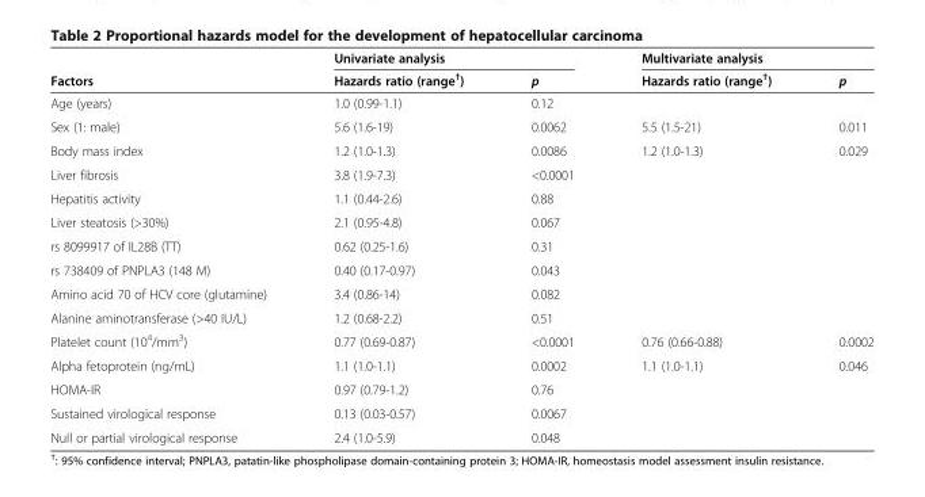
<table><thead><tr><td rowspan="2">Factors</td><td colspan="2">Univariate analysis</td><td colspan="2">Multivariate analysis</td></tr><tr><td>Hazards ratio (range<sup>†</sup>)</td><td>p</td><td>Hazards ratio (range<sup>†</sup>)</td><td>p</td></tr></thead><tbody><tr><td>Age (years)</td><td>1.0 (0.99-1.1)</td><td>0.12</td><td></td><td></td></tr><tr><td>Sex (1: male)</td><td>5.6 (1.6-19)</td><td>0.0062</td><td>5.5 (1.5-21)</td><td>0.011</td></tr><tr><td>Body mass index</td><td>1.2 (1.0-1.3)</td><td>0.0086</td><td>1.2 (1.0-1.3)</td><td>0.029</td></tr><tr><td>Liver fibrosis</td><td>3.8 (1.9-7.3)</td><td>&lt;0.0001</td><td></td><td></td></tr><tr><td>Hepatitis activity</td><td>1.1 (0.44-2.6)</td><td>0.88</td><td></td><td></td></tr><tr><td>Liver steatosis (&gt;30%)</td><td>2.1 (0.95-4.8)</td><td>0.067</td><td></td><td></td></tr><tr><td>rs 8099917 of IL28B (TT)</td><td>0.62 (0.25-1.6)</td><td>0.31</td><td></td><td></td></tr><tr><td>rs 738409 of PNPLA3 (148 M)</td><td>0.40 (0.17-0.97)</td><td>0.043</td><td></td><td></td></tr><tr><td>Amino acid 70 of HCV core (glutamine)</td><td>3.4 (0.86-14)</td><td>0.082</td><td></td><td></td></tr><tr><td>Alanine aminotransferase (&gt;40 IU/L)</td><td>1.2 (0.68-2.2)</td><td>0.51</td><td></td><td></td></tr><tr><td>Platelet count (10<sup>4</sup>/mm<sup>3</sup>)</td><td>0.77 (0.69-0.87)</td><td>&lt;0.0001</td><td>0.76 (0.66-0.88)</td><td>0.0002</td></tr><tr><td>Alpha fetoprotein (ng/mL)</td><td>1.1 (1.0-1.1)</td><td>0.0002</td><td>1.1 (1.0-1.1)</td><td>0.046</td></tr><tr><td>HOMA-IR</td><td>0.97 (0.79-1.2)</td><td>0.76</td><td></td><td></td></tr><tr><td>Sustained virological response</td><td>0.13 (0.03-0.57)</td><td>0.0067</td><td></td><td></td></tr><tr><td>Null or partial virological response</td><td>2.4 (1.0-5.9)</td><td>0.048</td><td></td><td></td></tr></tbody></table>